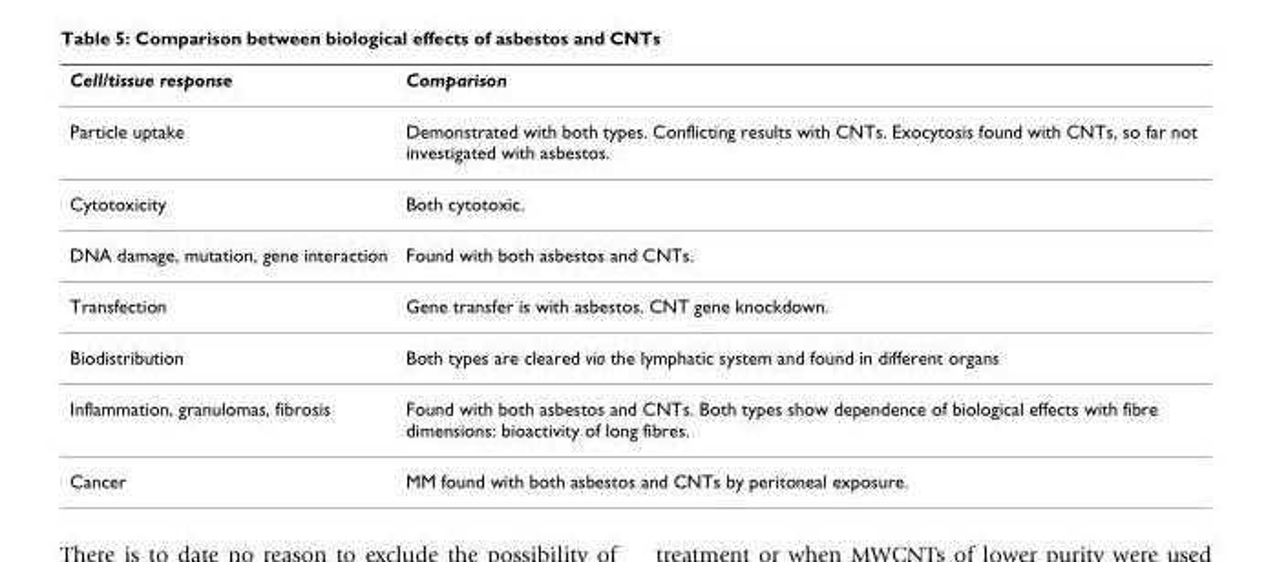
<table><thead><tr><td>Cell/tissue response</td><td>Comparison</td></tr></thead><tbody><tr><td>Particle uptake</td><td>Demonstrated with both types. Conflicting results with CNTs. Exocytosis found with CNTs, so far not investigated with asbestos.</td></tr><tr><td>Cytotoxicity</td><td>Both cytotoxic.</td></tr><tr><td>DNA damage, mutation, gene interaction</td><td>Found with both asbestos and CNTs.</td></tr><tr><td>Transfection</td><td>Gene transfer is with asbestos. CNT gene knockdown.</td></tr><tr><td>Biodistribution</td><td>Both types are cleared via the lymphatic system and found in different organs</td></tr><tr><td>Inflammation, granulomas, fibrosis</td><td>Found with both asbestos and CNTs. Both types show dependence of biological effects with fibre dimensions: bioactivity of long fibres.</td></tr><tr><td>Cancer</td><td>MM found with both asbestos and CNTs by peritoneal exposure.</td></tr></tbody></table>